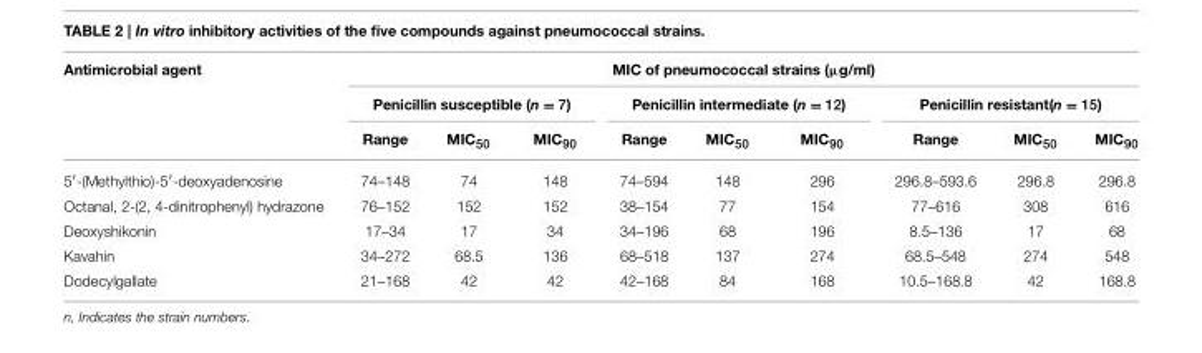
<table><thead><tr><td rowspan="3">Antimicrobial agent</td><td colspan="9">MIC of pneumococcal strains (µg/ml)</td></tr><tr><td colspan="3">Penicillin susceptible (n = 7)</td><td colspan="3">Penicillin intermediate (n = 12)</td><td colspan="3">Penicillin resistant(n = 15)</td></tr><tr><td>Range</td><td>MIC<sub>50</sub></td><td>MIC<sub>90</sub></td><td>Range</td><td>MIC<sub>50</sub></td><td>MIC<sub>90</sub></td><td>Range</td><td>MIC<sub>50</sub></td><td>MIC<sub>90</sub></td></tr></thead><tbody><tr><td>5′-(Methylthio)-5′-deoxyadenosine</td><td>74–148</td><td>74</td><td>148</td><td>74–594</td><td>148</td><td>296</td><td>296.8–593.6</td><td>296.8</td><td>296.8</td></tr><tr><td>Octanal, 2-(2, 4-dinitrophenyl) hydrazone</td><td>76–152</td><td>152</td><td>152</td><td>38–154</td><td>77</td><td>154</td><td>77–616</td><td>308</td><td>616</td></tr><tr><td>Deoxyshikonin</td><td>17–34</td><td>17</td><td>34</td><td>34–196</td><td>68</td><td>196</td><td>8.5–136</td><td>17</td><td>68</td></tr><tr><td>Kavahin</td><td>34–272</td><td>68.5</td><td>136</td><td>68–518</td><td>137</td><td>274</td><td>68.5–548</td><td>274</td><td>548</td></tr><tr><td>Dodecylgallate</td><td>21–168</td><td>42</td><td>42</td><td>42–168</td><td>84</td><td>168</td><td>10.5–168.8</td><td>42</td><td>168.8</td></tr></tbody></table>